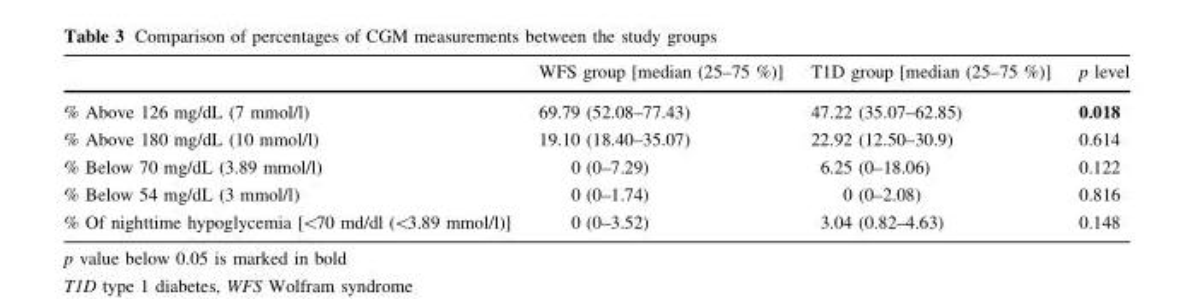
<table><thead><tr><td></td><td>WFS group [median (25–75 %)]</td><td>T1D group [median (25–75 %)]</td><td>p level</td></tr></thead><tbody><tr><td>% Above 126 mg/dL (7 mmol/l)</td><td>69.79 (52.08–77.43)</td><td>47.22 (35.07–62.85)</td><td>0.018</td></tr><tr><td>% Above 180 mg/dL (10 mmol/l)</td><td>19.10 (18.40–35.07)</td><td>22.92 (12.50–30.9)</td><td>0.614</td></tr><tr><td>% Below 70 mg/dL (3.89 mmol/l)</td><td>0 (0–7.29)</td><td>6.25 (0–18.06)</td><td>0.122</td></tr><tr><td>% Below 54 mg/dL (3 mmol/l)</td><td>0 (0–1.74)</td><td>0 (0–2.08)</td><td>0.816</td></tr><tr><td>% Of nighttime hypoglycemia [&lt;70 md/dl (&lt;3.89 mmol/l)]</td><td>0 (0–3.52)</td><td>3.04 (0.82–4.63)</td><td>0.148</td></tr></tbody></table>